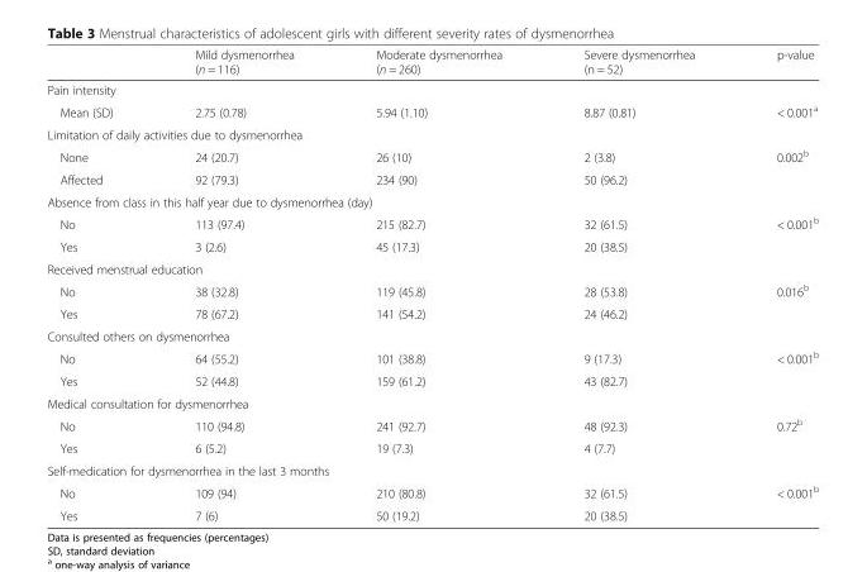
<table><thead><tr><td></td><td>Mild dysmenorrhea (n = 116)</td><td>Moderate dysmenorrhea (n = 260)</td><td>Severe dysmenorrhea (n = 52)</td><td>p-value</td></tr></thead><tbody><tr><td colspan="5">Pain intensity</td></tr><tr><td>Mean (SD)</td><td>2.75 (0.78)</td><td>5.94 (1.10)</td><td>8.87 (0.81)</td><td>&lt; 0.001<sup>a</sup></td></tr><tr><td colspan="5">Limitation of daily activities due to dysmenorrhea</td></tr><tr><td>None</td><td>24 (20.7)</td><td>26 (10)</td><td>2 (3.8)</td><td>0.002<sup>b</sup></td></tr><tr><td>Affected</td><td>92 (79.3)</td><td>234 (90)</td><td>50 (96.2)</td><td></td></tr><tr><td colspan="5">Absence from class in this half year due to dysmenorrhea (day)</td></tr><tr><td>No</td><td>113 (97.4)</td><td>215 (82.7)</td><td>32 (61.5)</td><td>&lt; 0.001<sup>b</sup></td></tr><tr><td>Yes</td><td>3 (2.6)</td><td>45 (17.3)</td><td>20 (38.5)</td><td></td></tr><tr><td colspan="5">Received menstrual education</td></tr><tr><td>No</td><td>38 (32.8)</td><td>119 (45.8)</td><td>28 (53.8)</td><td>0.016<sup>b</sup></td></tr><tr><td>Yes</td><td>78 (67.2)</td><td>141 (54.2)</td><td>24 (46.2)</td><td></td></tr><tr><td colspan="5">Consulted others on dysmenorrhea</td></tr><tr><td>No</td><td>64 (55.2)</td><td>101 (38.8)</td><td>9 (17.3)</td><td>&lt; 0.001<sup>b</sup></td></tr><tr><td>Yes</td><td>52 (44.8)</td><td>159 (61.2)</td><td>43 (82.7)</td><td></td></tr><tr><td colspan="5">Medical consultation for dysmenorrhea</td></tr><tr><td>No</td><td>110 (94.8)</td><td>241 (92.7)</td><td>48 (92.3)</td><td>0.72<sup>b</sup></td></tr><tr><td>Yes</td><td>6 (5.2)</td><td>19 (7.3)</td><td>4 (7.7)</td><td></td></tr><tr><td colspan="5">Self-medication for dysmenorrhea in the last 3 months</td></tr><tr><td>No</td><td>109 (94)</td><td>210 (80.8)</td><td>32 (61.5)</td><td>&lt; 0.001<sup>b</sup></td></tr><tr><td>Yes</td><td>7 (6)</td><td>50 (19.2)</td><td>20 (38.5)</td><td></td></tr></tbody></table>